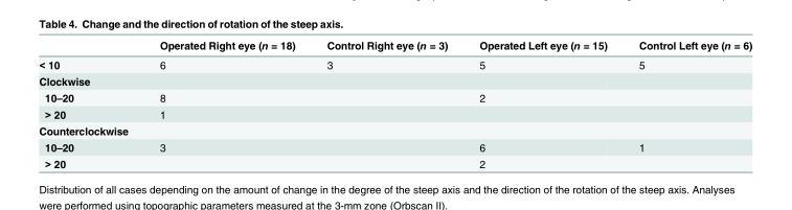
<table><thead><tr><td></td><td>Operated Right eye (n = 18)</td><td>Control Right eye (n = 3)</td><td>Operated Left eye (n = 15)</td><td>Control Left eye (n = 6)</td></tr></thead><tbody><tr><td>&lt; 10</td><td>6</td><td>3</td><td>5</td><td>5</td></tr><tr><td colspan="5">Clockwise</td></tr><tr><td>10–20</td><td>8</td><td></td><td>2</td><td></td></tr><tr><td>&gt; 20</td><td>1</td><td></td><td></td><td></td></tr><tr><td colspan="5">Counterclockwise</td></tr><tr><td>10–20</td><td>3</td><td></td><td>6</td><td>1</td></tr><tr><td>&gt; 20</td><td></td><td></td><td>2</td><td></td></tr></tbody></table>